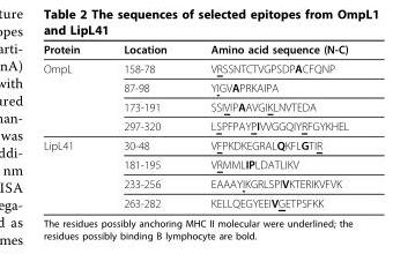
<table><thead><tr><td>Protein</td><td>Location</td><td>Amino acid sequence (N-C)</td></tr></thead><tbody><tr><td rowspan="4">OmpL</td><td>158-78</td><td>VRSSNTCTVGPSDPACFQNP</td></tr><tr><td>87-98</td><td>YIGVAPRKAIPA</td></tr><tr><td>173-191</td><td>SSIVIPAAVGIKLNVTEDA</td></tr><tr><td>297-320</td><td>LSPFPAYPIVVGGQIYRFGYKHEL</td></tr><tr><td rowspan="4">LipL41</td><td>30-48</td><td>VFPKDKEGRALQKFLGTIR</td></tr><tr><td>181-195</td><td>VRMMLIPLDATLIKV</td></tr><tr><td>233-256</td><td>EAAAYIKGRLSPIVKTERIKVFVK</td></tr><tr><td>263-282</td><td>KELLQEGYEEIVGETPSFKK</td></tr></tbody></table>